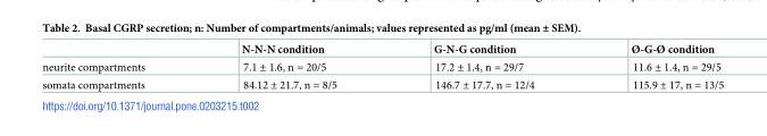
<table><thead><tr><td></td><td>N-N-N condition</td><td>G-N-G condition</td><td>Ø-G-Ø condition</td></tr></thead><tbody><tr><td>neurite compartments</td><td>7.1 ± 1.6, n = 20/5</td><td>17.2 ± 1.4, n = 29/7</td><td>11.6 ± 1.4, n = 29/5</td></tr><tr><td>somata compartments</td><td>84.12 ± 21.7, n = 8/5</td><td>146.7 ± 17.7, n = 12/4</td><td>115.9 ± 17, n = 13/5</td></tr></tbody></table>